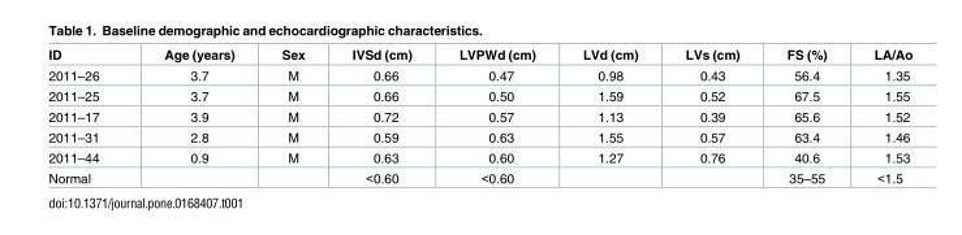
<table><thead><tr><td>ID</td><td>Age (years)</td><td>Sex</td><td>IVSd (cm)</td><td>LVPWd (cm)</td><td>LVd (cm)</td><td>LVs (cm)</td><td>FS (%)</td><td>LA/Ao</td></tr></thead><tbody><tr><td>2011–26</td><td>3.7</td><td>M</td><td>0.66</td><td>0.47</td><td>0.98</td><td>0.43</td><td>56.4</td><td>1.35</td></tr><tr><td>2011–25</td><td>3.7</td><td>M</td><td>0.66</td><td>0.50</td><td>1.59</td><td>0.52</td><td>67.5</td><td>1.55</td></tr><tr><td>2011–17</td><td>3.9</td><td>M</td><td>0.72</td><td>0.57</td><td>1.13</td><td>0.39</td><td>65.6</td><td>1.52</td></tr><tr><td>2011–31</td><td>2.8</td><td>M</td><td>0.59</td><td>0.63</td><td>1.55</td><td>0.57</td><td>63.4</td><td>1.46</td></tr><tr><td>2011–44</td><td>0.9</td><td>M</td><td>0.63</td><td>0.60</td><td>1.27</td><td>0.76</td><td>40.6</td><td>1.53</td></tr><tr><td>Normal</td><td></td><td></td><td>&lt;0.60</td><td>&lt;0.60</td><td></td><td></td><td>35–55</td><td>&lt;1.5</td></tr></tbody></table>